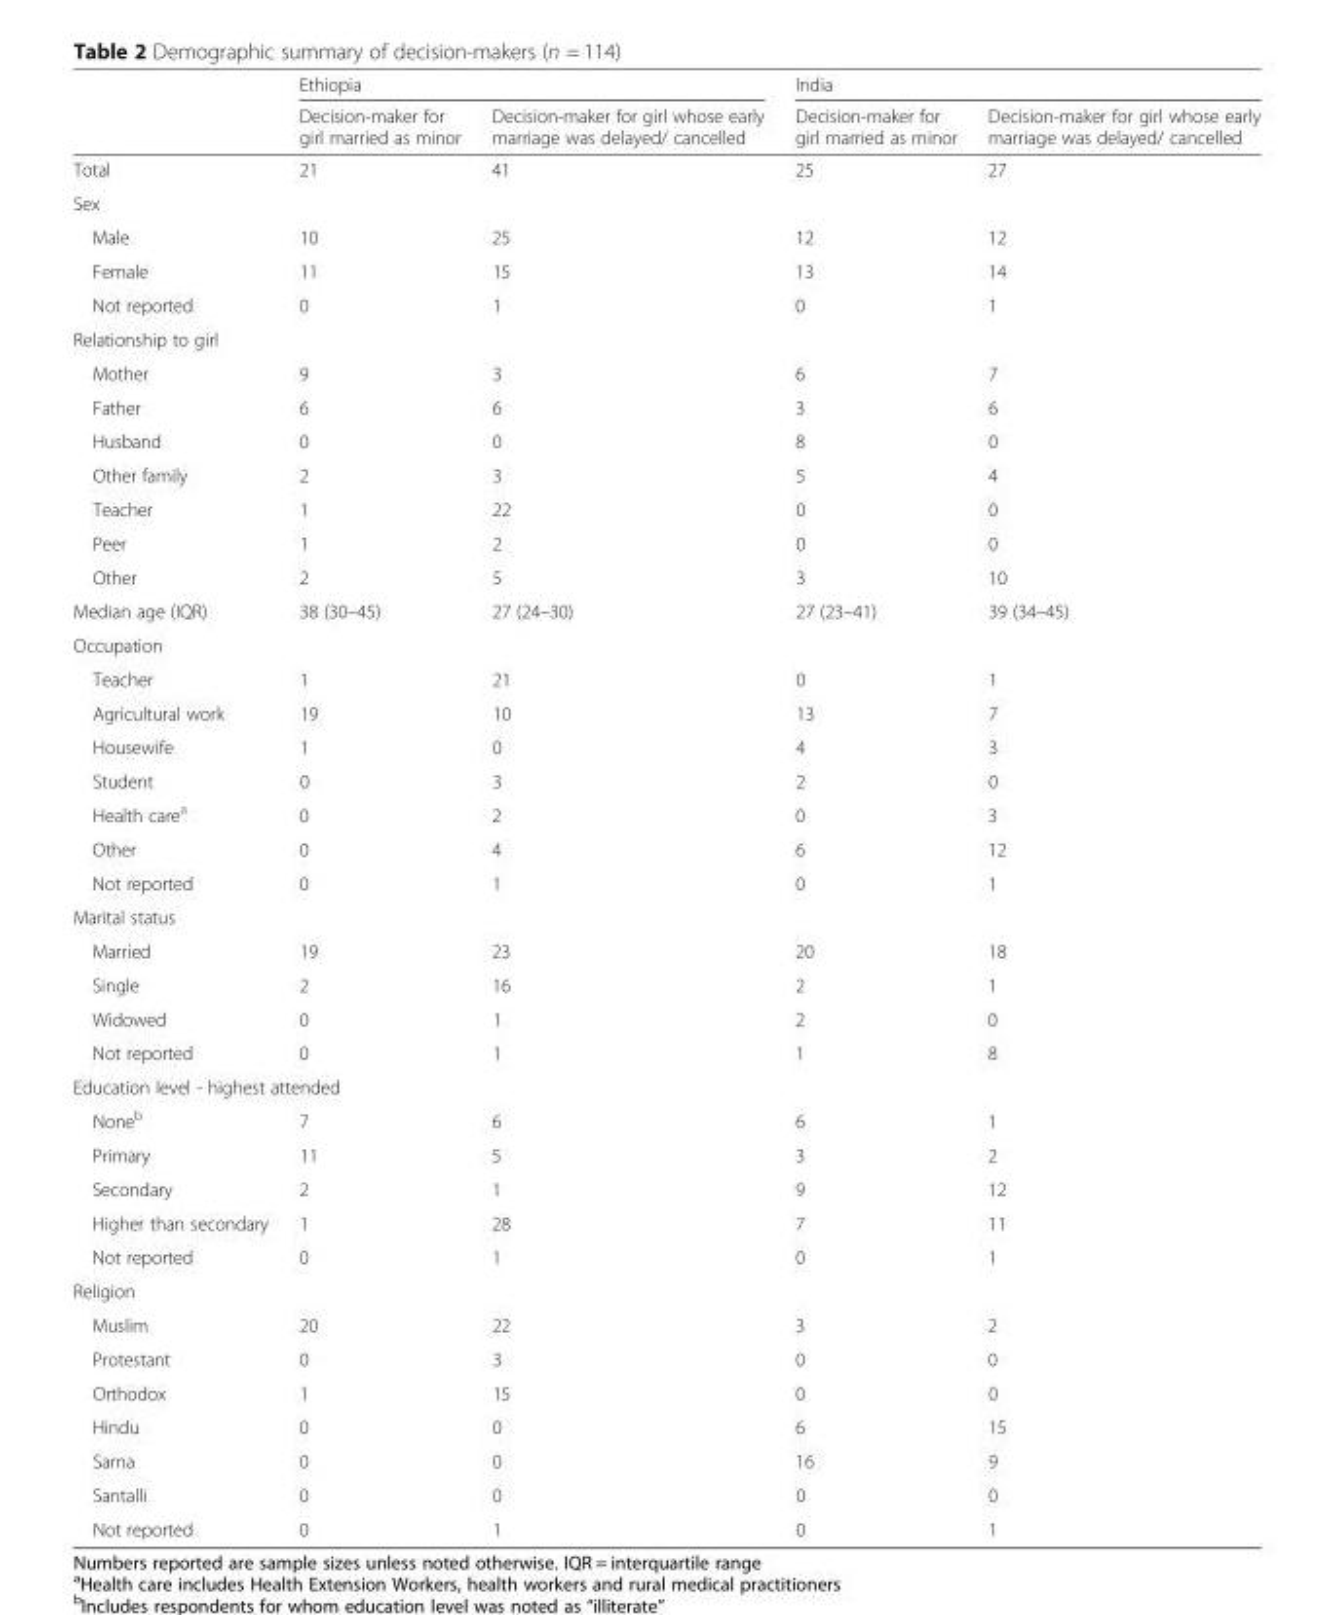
<table><thead><tr><td rowspan="2"></td><td colspan="2">Ethiopia</td><td colspan="2">India</td></tr><tr><td>Decision-maker for girl married as minor</td><td>Decision-maker for girl whose early marriage was delayed/ cancelled</td><td>Decision-maker for girl married as minor</td><td>Decision-maker for girl whose early marriage was delayed/ cancelled</td></tr></thead><tbody><tr><td>Total</td><td>21</td><td>41</td><td>25</td><td>27</td></tr><tr><td colspan="5">Sex</td></tr><tr><td>Male</td><td>10</td><td>25</td><td>12</td><td>12</td></tr><tr><td>Female</td><td>11</td><td>15</td><td>13</td><td>14</td></tr><tr><td>Not reported</td><td>0</td><td>1</td><td>0</td><td>1</td></tr><tr><td colspan="5">Relationship to girl</td></tr><tr><td>Mother</td><td>9</td><td>3</td><td>6</td><td>7</td></tr><tr><td>Father</td><td>6</td><td>6</td><td>3</td><td>6</td></tr><tr><td>Husband</td><td>0</td><td>0</td><td>8</td><td>0</td></tr><tr><td>Other family</td><td>2</td><td>3</td><td>5</td><td>4</td></tr><tr><td>Teacher</td><td>1</td><td>22</td><td>0</td><td>0</td></tr><tr><td>Peer</td><td>1</td><td>2</td><td>0</td><td>0</td></tr><tr><td>Other</td><td>2</td><td>5</td><td>3</td><td>10</td></tr><tr><td>Median age (IQR)</td><td>38 (30–45)</td><td>27 (24–30)</td><td>27 (23–41)</td><td>39 (34–45)</td></tr><tr><td colspan="5">Occupation</td></tr><tr><td>Teacher</td><td>1</td><td>21</td><td>0</td><td>1</td></tr><tr><td>Agricultural work</td><td>19</td><td>10</td><td>13</td><td>7</td></tr><tr><td>Housewife</td><td>1</td><td>0</td><td>4</td><td>3</td></tr><tr><td>Student</td><td>0</td><td>3</td><td>2</td><td>0</td></tr><tr><td>Health care<sup>a</sup></td><td>0</td><td>2</td><td>0</td><td>3</td></tr><tr><td>Other</td><td>0</td><td>4</td><td>6</td><td>12</td></tr><tr><td>Not reported</td><td>0</td><td>1</td><td>0</td><td>1</td></tr><tr><td colspan="5">Marital status</td></tr><tr><td>Married</td><td>19</td><td>23</td><td>20</td><td>18</td></tr><tr><td>Single</td><td>2</td><td>16</td><td>2</td><td>1</td></tr><tr><td>Widowed</td><td>0</td><td>1</td><td>2</td><td>0</td></tr><tr><td>Not reported</td><td>0</td><td>1</td><td>1</td><td>8</td></tr><tr><td colspan="5">Education level - highest attended</td></tr><tr><td>None<sup>b</sup></td><td>7</td><td>6</td><td>6</td><td>1</td></tr><tr><td>Primary</td><td>11</td><td>5</td><td>3</td><td>2</td></tr><tr><td>Secondary</td><td>2</td><td>1</td><td>9</td><td>12</td></tr><tr><td>Higher than secondary</td><td>1</td><td>28</td><td>7</td><td>11</td></tr><tr><td>Not reported</td><td>0</td><td>1</td><td>0</td><td>1</td></tr><tr><td colspan="5">Religion</td></tr><tr><td>Muslim</td><td>20</td><td>22</td><td>3</td><td>2</td></tr><tr><td>Protestant</td><td>0</td><td>3</td><td>0</td><td>0</td></tr><tr><td>Orthodox</td><td>1</td><td>15</td><td>0</td><td>0</td></tr><tr><td>Hindu</td><td>0</td><td>0</td><td>6</td><td>15</td></tr><tr><td>Sarna</td><td>0</td><td>0</td><td>16</td><td>9</td></tr><tr><td>Santalli</td><td>0</td><td>0</td><td>0</td><td>0</td></tr><tr><td>Not reported</td><td>0</td><td>1</td><td>0</td><td>1</td></tr></tbody></table>